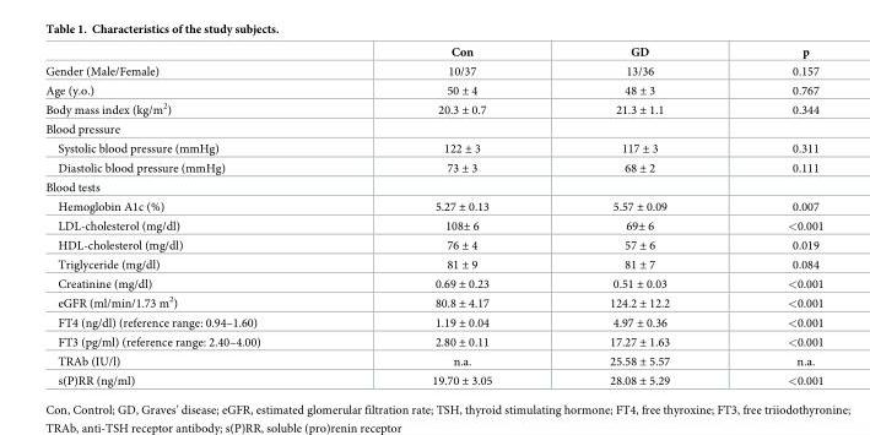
<table><thead><tr><td></td><td>Con</td><td>GD</td><td>p</td></tr></thead><tbody><tr><td>Gender (Male/Female)</td><td>10/37</td><td>13/36</td><td>0.157</td></tr><tr><td>Age (y.o.)</td><td>50 ± 4</td><td>48 ± 3</td><td>0.767</td></tr><tr><td>Body mass index (kg/m<sup>2</sup>)</td><td>20.3 ± 0.7</td><td>21.3 ± 1.1</td><td>0.344</td></tr><tr><td colspan="4">Blood pressure</td></tr><tr><td>Systolic blood pressure (mmHg)</td><td>122 ± 3</td><td>117 ± 3</td><td>0.311</td></tr><tr><td>Diastolic blood pressure (mmHg)</td><td>73 ± 3</td><td>68 ± 2</td><td>0.111</td></tr><tr><td colspan="4">Blood tests</td></tr><tr><td>Hemoglobin A1c (%)</td><td>5.27 ± 0.13</td><td>5.57 ± 0.09</td><td>0.007</td></tr><tr><td>LDL-cholesterol (mg/dl)</td><td>108± 6</td><td>69± 6</td><td>&lt;0.001</td></tr><tr><td>HDL-cholesterol (mg/dl)</td><td>76 ± 4</td><td>57 ± 6</td><td>0.019</td></tr><tr><td>Triglyceride (mg/dl)</td><td>81 ± 9</td><td>81 ± 7</td><td>0.084</td></tr><tr><td>Creatinine (mg/dl)</td><td>0.69 ± 0.23</td><td>0.51 ± 0.03</td><td>&lt;0.001</td></tr><tr><td>eGFR (ml/min/1.73 m<sup>2</sup>)</td><td>80.8 ± 4.17</td><td>124.2 ± 12.2</td><td>&lt;0.001</td></tr><tr><td>FT4 (ng/dl) (reference range: 0.94–1.60)</td><td>1.19 ± 0.04</td><td>4.97 ± 0.36</td><td>&lt;0.001</td></tr><tr><td>FT3 (pg/ml) (reference range: 2.40–4.00)</td><td>2.80 ± 0.11</td><td>17.27 ± 1.63</td><td>&lt;0.001</td></tr><tr><td>TRAb (IU/l)</td><td>n.a.</td><td>25.58 ± 5.57</td><td>n.a.</td></tr><tr><td>s(P)RR (ng/ml)</td><td>19.70 ± 3.05</td><td>28.08 ± 5.29</td><td>&lt;0.001</td></tr></tbody></table>